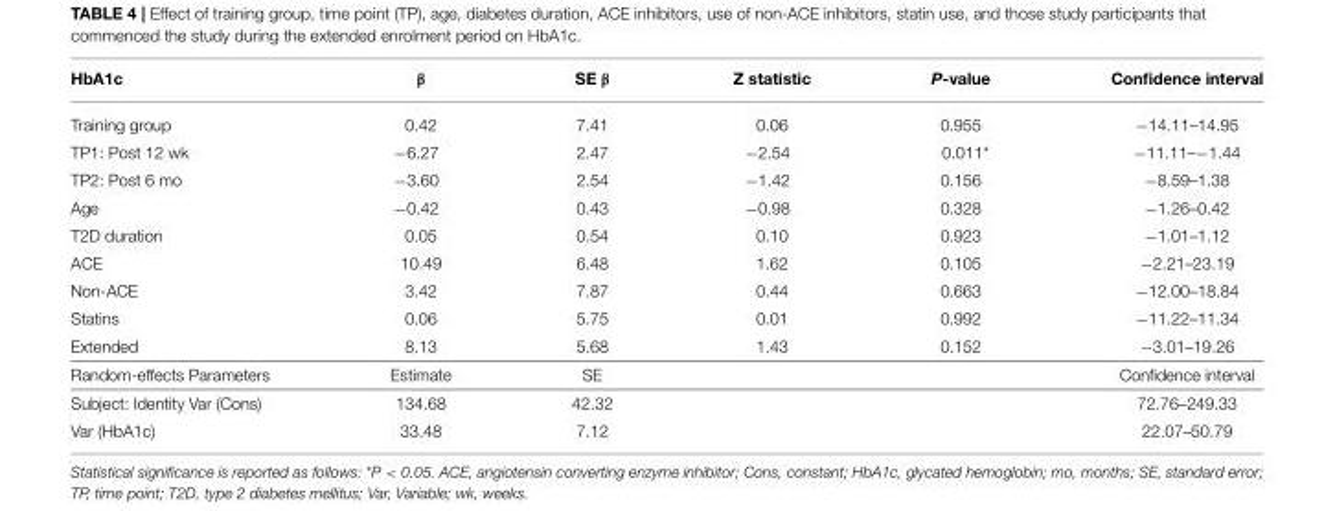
<table><thead><tr><td>HbA1c</td><td>β</td><td>SE β</td><td>Z statistic</td><td>P-value</td><td>Confidence interval</td></tr></thead><tbody><tr><td>Training group</td><td>0.42</td><td>7.41</td><td>0.06</td><td>0.955</td><td>−14.11–14.95</td></tr><tr><td>TP1: Post 12 wk</td><td>−6.27</td><td>2.47</td><td>−2.54</td><td>0.011*</td><td>−11.11–−1.44</td></tr><tr><td>TP2: Post 6 mo</td><td>−3.60</td><td>2.54</td><td>−1.42</td><td>0.156</td><td>−8.59–1.38</td></tr><tr><td>Age</td><td>−0.42</td><td>0.43</td><td>−0.98</td><td>0.328</td><td>−1.26–0.42</td></tr><tr><td>T2D duration</td><td>0.05</td><td>0.54</td><td>0.10</td><td>0.923</td><td>−1.01–1.12</td></tr><tr><td>ACE</td><td>10.49</td><td>6.48</td><td>1.62</td><td>0.105</td><td>−2.21–23.19</td></tr><tr><td>Non-ACE</td><td>3.42</td><td>7.87</td><td>0.44</td><td>0.663</td><td>−12.00–18.84</td></tr><tr><td>Statins</td><td>0.06</td><td>5.75</td><td>0.01</td><td>0.992</td><td>−11.22–11.34</td></tr><tr><td>Extended</td><td>8.13</td><td>5.68</td><td>1.43</td><td>0.152</td><td>−3.01–19.26</td></tr><tr><td>Random-effects Parameters</td><td>Estimate</td><td>SE</td><td></td><td></td><td>Confidence interval</td></tr><tr><td>Subject: Identity Var (Cons)</td><td>134.68</td><td>42.32</td><td></td><td></td><td>72.76–249.33</td></tr><tr><td>Var (HbA1c)</td><td>33.48</td><td>7.12</td><td></td><td></td><td>22.07–50.79</td></tr></tbody></table>